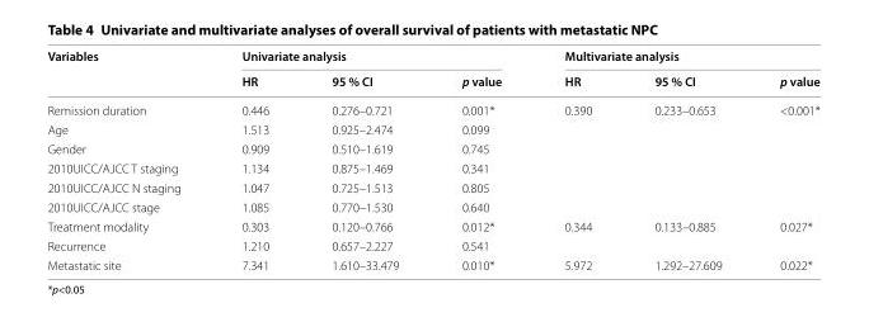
<table><thead><tr><td rowspan="2">Variables</td><td colspan="3">Univariate analysis</td><td colspan="3">Multivariate analysis</td></tr><tr><td>HR</td><td>95 % CI</td><td>p value</td><td>HR</td><td>95 % CI</td><td>p value</td></tr></thead><tbody><tr><td>Remission duration</td><td>0.446</td><td>0.276–0.721</td><td>0.001*</td><td>0.390</td><td>0.233–0.653</td><td>&lt;0.001*</td></tr><tr><td>Age</td><td>1.513</td><td>0.925–2.474</td><td>0.099</td><td></td><td></td><td></td></tr><tr><td>Gender</td><td>0.909</td><td>0.510–1.619</td><td>0.745</td><td></td><td></td><td></td></tr><tr><td>2010UICC/AJCC T staging</td><td>1.134</td><td>0.875–1.469</td><td>0.341</td><td></td><td></td><td></td></tr><tr><td>2010UICC/AJCC N staging</td><td>1.047</td><td>0.725–1.513</td><td>0.805</td><td></td><td></td><td></td></tr><tr><td>2010UICC/AJCC stage</td><td>1.085</td><td>0.770–1.530</td><td>0.640</td><td></td><td></td><td></td></tr><tr><td>Treatment modality</td><td>0.303</td><td>0.120–0.766</td><td>0.012*</td><td>0.344</td><td>0.133–0.885</td><td>0.027*</td></tr><tr><td>Recurrence</td><td>1.210</td><td>0.657–2.227</td><td>0.541</td><td></td><td></td><td></td></tr><tr><td>Metastatic site</td><td>7.341</td><td>1.610–33.479</td><td>0.010*</td><td>5.972</td><td>1.292–27.609</td><td>0.022*</td></tr></tbody></table>